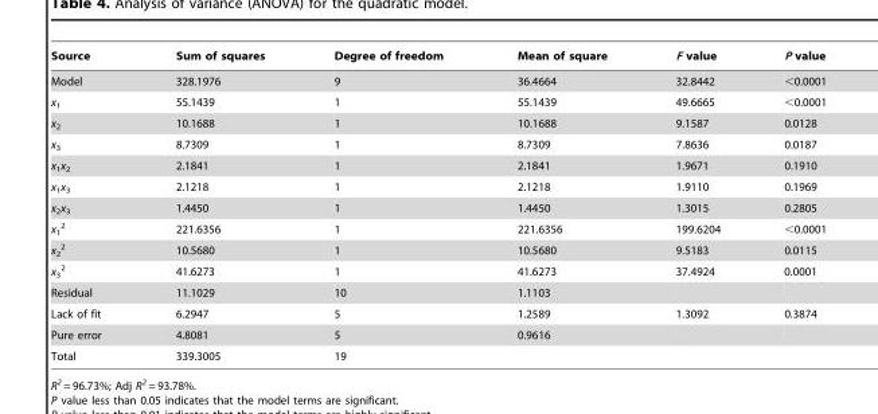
<table><thead><tr><td>Source</td><td>Sum of squares</td><td>Degree of freedom</td><td>Mean of square</td><td>F value</td><td>P value</td></tr></thead><tbody><tr><td>Model</td><td>328.1976</td><td>9</td><td>36.4664</td><td>32.8442</td><td>&lt;0.0001</td></tr><tr><td>x<sub>1</sub></td><td>55.1439</td><td>1</td><td>55.1439</td><td>49.6665</td><td>&lt;0.0001</td></tr><tr><td>x<sub>2</sub></td><td>10.1688</td><td>1</td><td>10.1688</td><td>9.1587</td><td>0.0128</td></tr><tr><td>x<sub>3</sub></td><td>8.7309</td><td>1</td><td>8.7309</td><td>7.8636</td><td>0.0187</td></tr><tr><td>x<sub>1</sub>x<sub>2</sub></td><td>2.1841</td><td>1</td><td>2.1841</td><td>1.9671</td><td>0.1910</td></tr><tr><td>x<sub>1</sub>x<sub>3</sub></td><td>2.1218</td><td>1</td><td>2.1218</td><td>1.9110</td><td>0.1969</td></tr><tr><td>x<sub>2</sub>x<sub>3</sub></td><td>1.4450</td><td>1</td><td>1.4450</td><td>1.3015</td><td>0.2805</td></tr><tr><td>x<sub>1</sub> <sup>2</sup></td><td>221.6356</td><td>1</td><td>221.6356</td><td>199.6204</td><td>&lt;0.0001</td></tr><tr><td>x<sub>2</sub> <sup>2</sup></td><td>10.5680</td><td>1</td><td>10.5680</td><td>9.5183</td><td>0.0115</td></tr><tr><td>x<sub>3</sub> <sup>2</sup></td><td>41.6273</td><td>1</td><td>41.6273</td><td>37.4924</td><td>0.0001</td></tr><tr><td>Residual</td><td>11.1029</td><td>10</td><td>1.1103</td><td></td><td></td></tr><tr><td>Lack of fit</td><td>6.2947</td><td>5</td><td>1.2589</td><td>1.3092</td><td>0.3874</td></tr><tr><td>Pure error</td><td>4.8081</td><td>5</td><td>0.9616</td><td></td><td></td></tr><tr><td>Total</td><td>339.3005</td><td>19</td><td></td><td></td><td></td></tr></tbody></table>